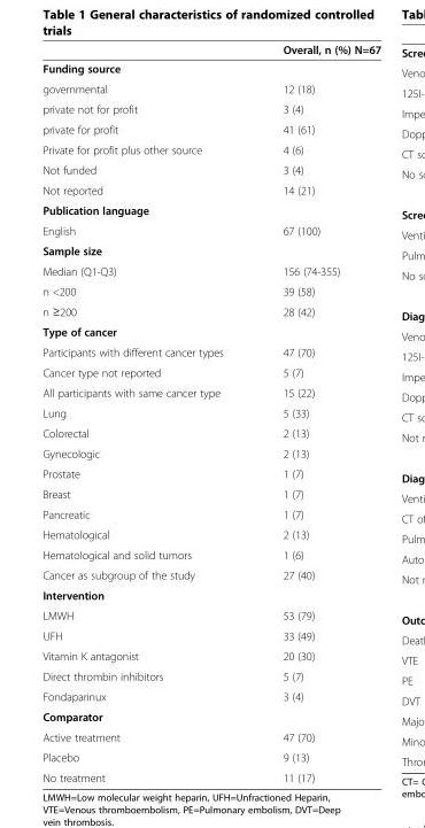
<table><thead><tr><td></td><td>Overall, n (%) N=67</td></tr></thead><tbody><tr><td colspan="2">Funding source</td></tr><tr><td>governmental</td><td>12 (18)</td></tr><tr><td>private not for profit</td><td>3 (4)</td></tr><tr><td>private for profit</td><td>41 (61)</td></tr><tr><td>Private for profit plus other source</td><td>4 (6)</td></tr><tr><td>Not funded</td><td>3 (4)</td></tr><tr><td>Not reported</td><td>14 (21)</td></tr><tr><td colspan="2">Publication language</td></tr><tr><td>English</td><td>67 (100)</td></tr><tr><td colspan="2">Sample size</td></tr><tr><td>Median (Q1-Q3)</td><td>156 (74-355)</td></tr><tr><td>n &lt;200</td><td>39 (58)</td></tr><tr><td>n ≥200</td><td>28 (42)</td></tr><tr><td colspan="2">Type of cancer</td></tr><tr><td>Participants with different cancer types</td><td>47 (70)</td></tr><tr><td>Cancer type not reported</td><td>5 (7)</td></tr><tr><td>All participants with same cancer type</td><td>15 (22)</td></tr><tr><td>Lung</td><td>5 (33)</td></tr><tr><td>Colorectal</td><td>2 (13)</td></tr><tr><td>Gynecologic</td><td>2 (13)</td></tr><tr><td>Prostate</td><td>1 (7)</td></tr><tr><td>Breast</td><td>1 (7)</td></tr><tr><td>Pancreatic</td><td>1 (7)</td></tr><tr><td>Hematological</td><td>2 (13)</td></tr><tr><td>Hematological and solid tumors</td><td>1 (6)</td></tr><tr><td>Cancer as subgroup of the study</td><td>27 (40)</td></tr><tr><td colspan="2">Intervention</td></tr><tr><td>LMWH</td><td>53 (79)</td></tr><tr><td>UFH</td><td>33 (49)</td></tr><tr><td>Vitamin K antagonist</td><td>20 (30)</td></tr><tr><td>Direct thrombin inhibitors</td><td>5 (7)</td></tr><tr><td>Fondaparinux</td><td>3 (4)</td></tr><tr><td colspan="2">Comparator</td></tr><tr><td>Active treatment</td><td>47 (70)</td></tr><tr><td>Placebo</td><td>9 (13)</td></tr><tr><td>No treatment</td><td>11 (17)</td></tr></tbody></table>